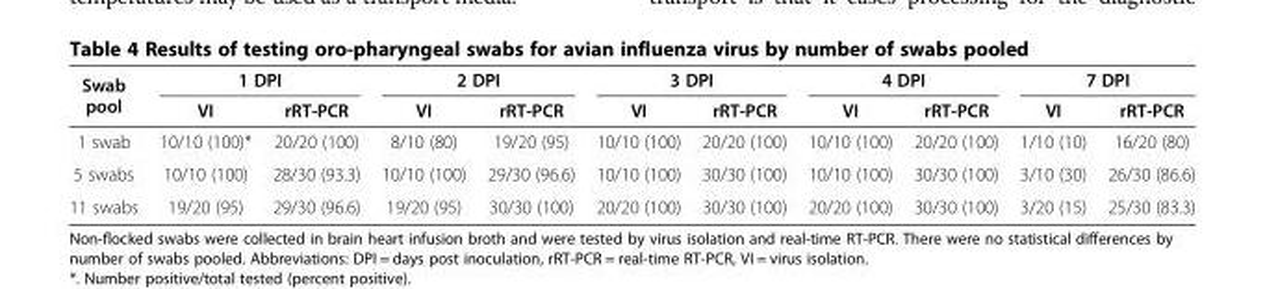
<table><thead><tr><td rowspan="2">Swab pool</td><td colspan="2">1 DPI</td><td colspan="2">2 DPI</td><td colspan="2">3 DPI</td><td colspan="2">4 DPI</td><td colspan="2">7 DPI</td></tr><tr><td>VI</td><td>rRT-PCR</td><td>VI</td><td>rRT-PCR</td><td>VI</td><td>rRT-PCR</td><td>VI</td><td>rRT-PCR</td><td>VI</td><td>rRT-PCR</td></tr></thead><tbody><tr><td>1 swab</td><td>10/10 (100)*</td><td>20/20 (100)</td><td>8/10 (80)</td><td>19/20 (95)</td><td>10/10 (100)</td><td>20/20 (100)</td><td>10/10 (100)</td><td>20/20 (100)</td><td>1/10 (10)</td><td>16/20 (80)</td></tr><tr><td>5 swabs</td><td>10/10 (100)</td><td>28/30 (93.3)</td><td>10/10 (100)</td><td>29/30 (96.6)</td><td>10/10 (100)</td><td>30/30 (100)</td><td>10/10 (100)</td><td>30/30 (100)</td><td>3/10 (30)</td><td>26/30 (86.6)</td></tr><tr><td>11 swabs</td><td>19/20 (95)</td><td>29/30 (96.6)</td><td>19/20 (95)</td><td>30/30 (100)</td><td>20/20 (100)</td><td>30/30 (100)</td><td>20/20 (100)</td><td>30/30 (100)</td><td>3/20 (15)</td><td>25/30 (83.3)</td></tr></tbody></table>